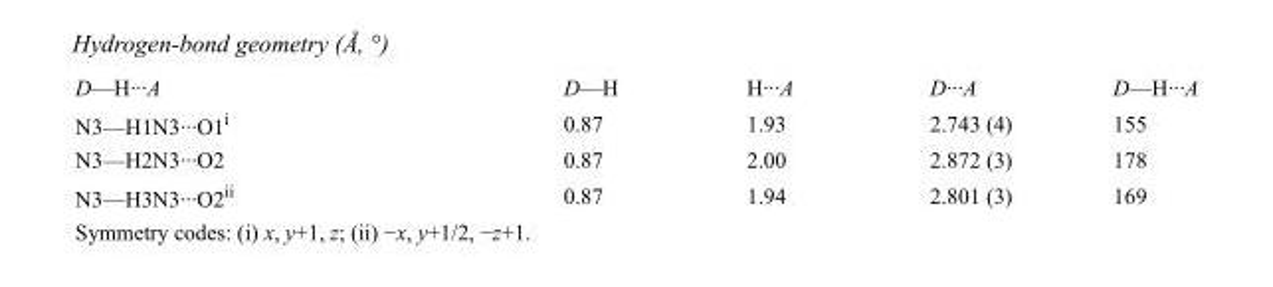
<table><tbody><tr><td>D—H···A</td><td>D—H</td><td>H···A</td><td>D···A</td><td>D—H···A</td></tr><tr><td>N3—H1N3···O1<sup>i</sup></td><td>0.87</td><td>1.93</td><td>2.743 (4)</td><td>155</td></tr><tr><td>N3—H2N3···O2</td><td>0.87</td><td>2.00</td><td>2.872 (3)</td><td>178</td></tr><tr><td>N3—H3N3···O2<sup>ii</sup></td><td>0.87</td><td>1.94</td><td>2.801 (3)</td><td>169</td></tr></tbody></table>